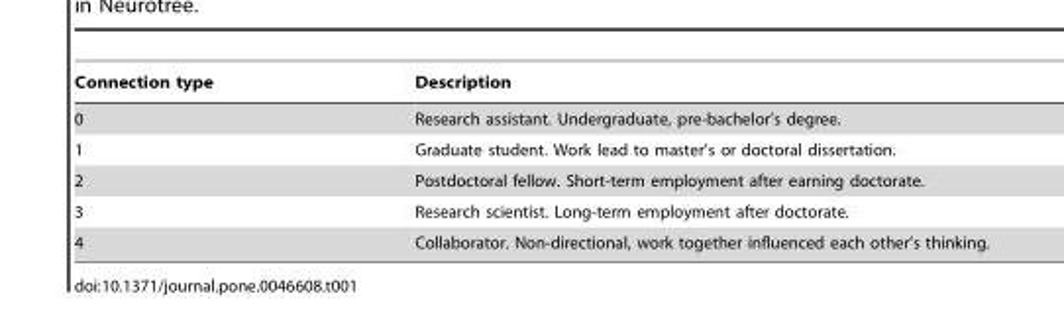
<table><thead><tr><td>Connection type</td><td>Description</td></tr></thead><tbody><tr><td>0</td><td>Research assistant. Undergraduate, pre-bachelor’s degree.</td></tr><tr><td>1</td><td>Graduate student. Work lead to master’s or doctoral dissertation.</td></tr><tr><td>2</td><td>Postdoctoral fellow. Short-term employment after earning doctorate.</td></tr><tr><td>3</td><td>Research scientist. Long-term employment after doctorate.</td></tr><tr><td>4</td><td>Collaborator. Non-directional, work together influenced each other’s thinking.</td></tr></tbody></table>